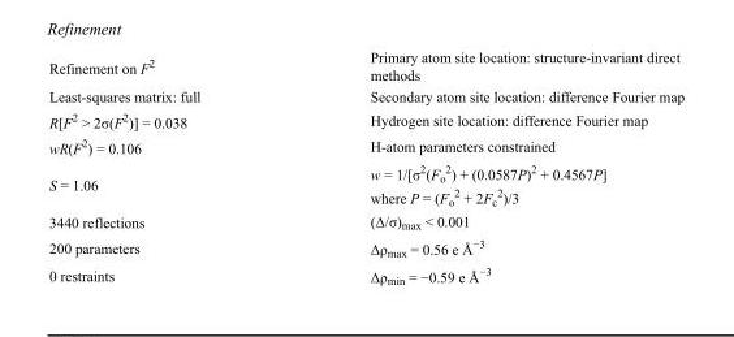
<table><tbody><tr><td>Refinement on F<sup>2</sup></td><td>Primary atom site location: structure-invariant direct methods</td></tr><tr><td>Least-squares matrix: full</td><td>Secondary atom site location: difference Fourier map</td></tr><tr><td>R[F<sup>2</sup> &gt; 2σ(F<sup>2</sup>)] = 0.038</td><td>Hydrogen site location: difference Fourier map</td></tr><tr><td>wR(F<sup>2</sup>) = 0.106</td><td>H-atom parameters constrained</td></tr><tr><td>S = 1.06</td><td>w = 1/[σ<sup>2</sup>(F<sub>o</sub> <sup>2</sup>) + (0.0587P)<sup>2</sup> + 0.4567P] where P = (F<sub>o</sub> <sup>2</sup> + 2F<sub>c</sub> <sup>2</sup>)/3</td></tr><tr><td>3440 reflections</td><td>(Δ/σ)<sub>max</sub> &lt; 0.001</td></tr><tr><td>200 parameters</td><td>Δρ<sub>max</sub> = 0.56 e Å<sup>−3</sup></td></tr><tr><td>0 restraints</td><td>Δρ<sub>min</sub> = −0.59 e Å<sup>−3</sup></td></tr></tbody></table>